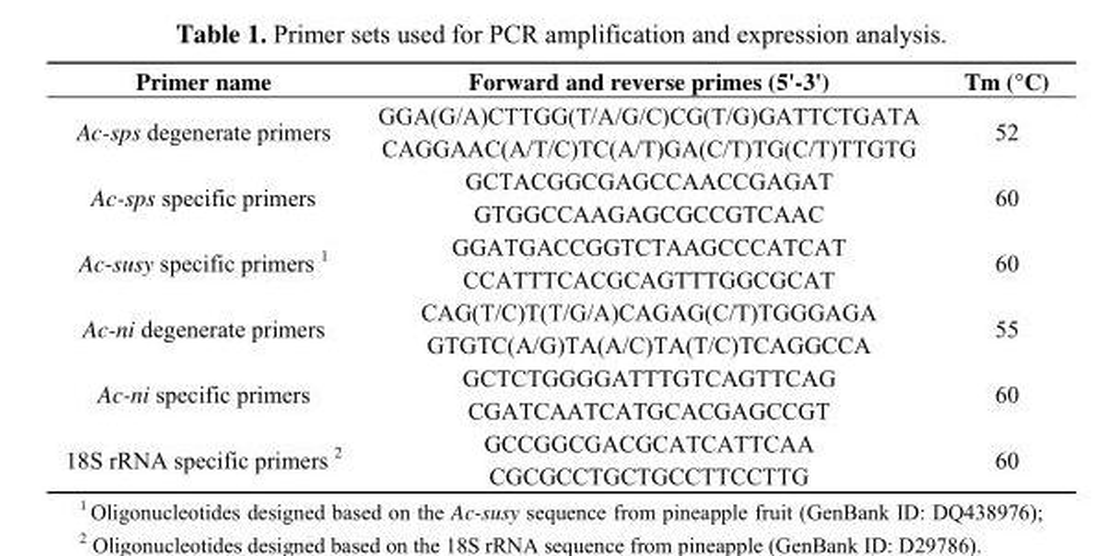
<table><thead><tr><td>Primer name</td><td>Forward and reverse primes (5&#x27;-3&#x27;)</td><td>Tm (°C)</td></tr></thead><tbody><tr><td>Ac-sps degenerate primers</td><td>GGA(G/A)CTTGG(T/A/G/C)CG(T/G)GATTCTGATA CAGGAAC(A/T/C)TC(A/T)GA(C/T)TG(C/T)TTGTG</td><td>52</td></tr><tr><td>Ac-sps specific primers</td><td>GCTACGGCGAGCCAACCGAGAT GTGGCCAAGAGCGCCGTCAAC</td><td>60</td></tr><tr><td>Ac-susy specific primers 1</td><td>GGATGACCGGTCTAAGCCCATCAT CCATTTCACGCAGTTTGGCGCAT</td><td>60</td></tr><tr><td>Ac-ni degenerate primers</td><td>CAG(T/C)T(T/G/A)CAGAG(C/T)TGGGAGA GTGTC(A/G)TA(A/C)TA(T/C)TCAGGCCA</td><td>55</td></tr><tr><td>Ac-ni specific primers</td><td>GCTCTGGGGATTTGTCAGTTCAG CGATCAATCATGCACGAGCCGT</td><td>60</td></tr><tr><td>18S rRNA specific primers 2</td><td>GCCGGCGACGCATCATTCAA CGCGCCTGCTGCCTTCCTTG</td><td>60</td></tr></tbody></table>